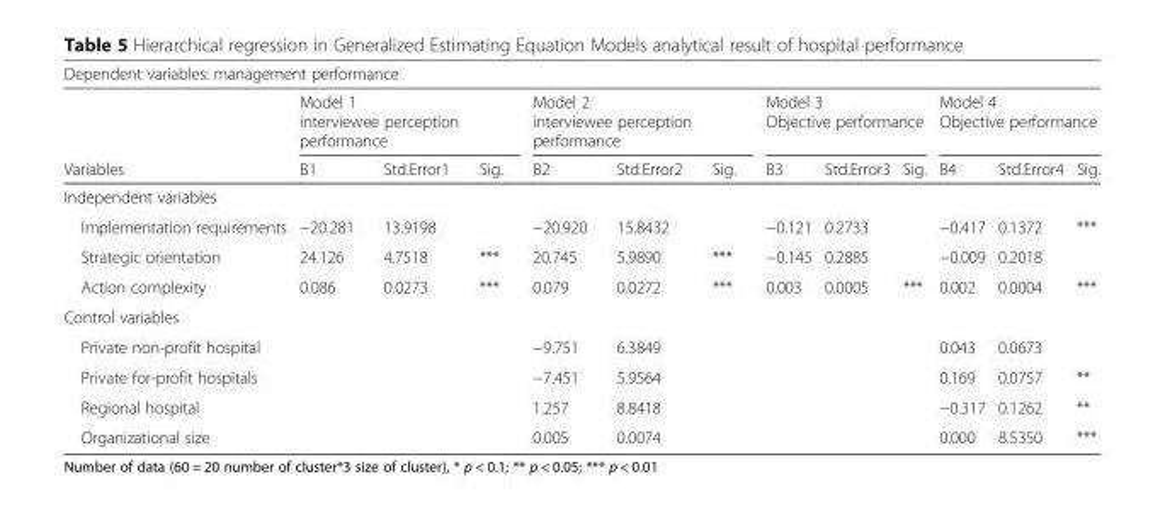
<table><thead><tr><td colspan="13">Dependent variables: management performance</td></tr><tr><td rowspan="2">Variables</td><td colspan="3">Model 1 interviewee perception performance</td><td colspan="3">Model 2 interviewee perception performance</td><td colspan="3">Model 3 Objective performance</td><td colspan="3">Model 4 Objective performance</td></tr><tr><td>B1</td><td>Std.Error1</td><td>Sig.</td><td>B2</td><td>Std.Error2</td><td>Sig.</td><td>B3</td><td>Std.Error3</td><td>Sig.</td><td>B4</td><td>Std.Error4</td><td>Sig.</td></tr></thead><tbody><tr><td colspan="13">Independent variables</td></tr><tr><td>Implementation requirements</td><td>−20.281</td><td>13.9198</td><td></td><td>−20.920</td><td>15.8432</td><td></td><td>−0.121</td><td>0.2733</td><td></td><td>−0.417</td><td>0.1372</td><td>***</td></tr><tr><td>Strategic orientation</td><td>24.126</td><td>4.7518</td><td>***</td><td>20.745</td><td>5.9890</td><td>***</td><td>−0.145</td><td>0.2885</td><td></td><td>−0.009</td><td>0.2018</td><td></td></tr><tr><td>Action complexity</td><td>0.086</td><td>0.0273</td><td>***</td><td>0.079</td><td>0.0272</td><td>***</td><td>0.003</td><td>0.0005</td><td>***</td><td>0.002</td><td>0.0004</td><td>***</td></tr><tr><td colspan="13">Control variables</td></tr><tr><td>Private non-profit hospital</td><td></td><td></td><td></td><td>−9.751</td><td>6.3849</td><td></td><td></td><td></td><td></td><td>0.043</td><td>0.0673</td><td></td></tr><tr><td>Private for-profit hospitals</td><td></td><td></td><td></td><td>−7.451</td><td>5.9564</td><td></td><td></td><td></td><td></td><td>0.169</td><td>0.0757</td><td>**</td></tr><tr><td>Regional hospital</td><td></td><td></td><td></td><td>1.257</td><td>8.8418</td><td></td><td></td><td></td><td></td><td>−0.317</td><td>0.1262</td><td>**</td></tr><tr><td>Organizational size</td><td></td><td></td><td></td><td>0.005</td><td>0.0074</td><td></td><td></td><td></td><td></td><td>0.000</td><td>8.5350</td><td>***</td></tr></tbody></table>